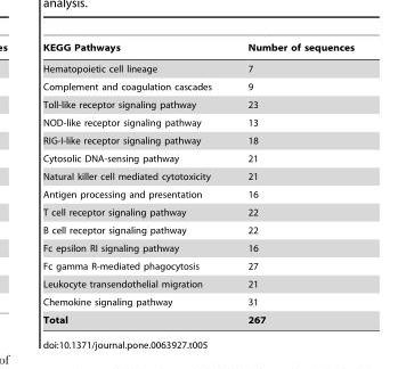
<table><thead><tr><td>KEGG Pathways</td><td>Number of sequences</td></tr></thead><tbody><tr><td>Hematopoietic cell lineage</td><td>7</td></tr><tr><td>Complement and coagulation cascades</td><td>9</td></tr><tr><td>Toll-like receptor signaling pathway</td><td>23</td></tr><tr><td>NOD-like receptor signaling pathway</td><td>13</td></tr><tr><td>RIG-I-like receptor signaling pathway</td><td>18</td></tr><tr><td>Cytosolic DNA-sensing pathway</td><td>21</td></tr><tr><td>Natural killer cell mediated cytotoxicity</td><td>21</td></tr><tr><td>Antigen processing and presentation</td><td>16</td></tr><tr><td>T cell receptor signaling pathway</td><td>22</td></tr><tr><td>B cell receptor signaling pathway</td><td>22</td></tr><tr><td>Fc epsilon RI signaling pathway</td><td>16</td></tr><tr><td>Fc gamma R-mediated phagocytosis</td><td>27</td></tr><tr><td>Leukocyte transendothelial migration</td><td>21</td></tr><tr><td>Chemokine signaling pathway</td><td>31</td></tr><tr><td>Total</td><td>267</td></tr></tbody></table>